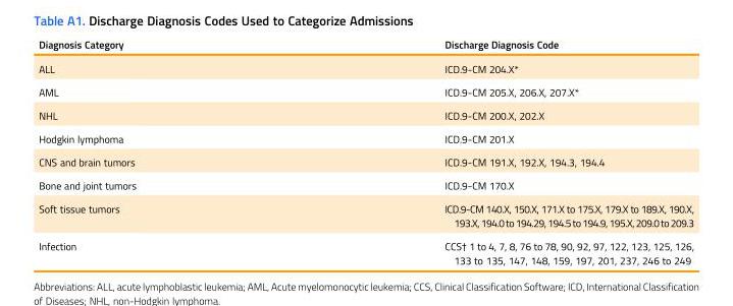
<table><thead><tr><td>Diagnosis Category</td><td>Discharge Diagnosis Code</td></tr></thead><tbody><tr><td>ALL</td><td>ICD.9-CM 204.X*</td></tr><tr><td>AML</td><td>ICD.9-CM 205.X, 206.X, 207.X*</td></tr><tr><td>NHL</td><td>ICD.9-CM 200.X, 202.X</td></tr><tr><td>Hodgkin lymphoma</td><td>ICD.9-CM 201.X</td></tr><tr><td>CNS and brain tumors</td><td>ICD.9-CM 191.X, 192.X, 194.3, 194.4</td></tr><tr><td>Bone and joint tumors</td><td>ICD.9-CM 170.X</td></tr><tr><td>Soft tissue tumors</td><td>ICD.9-CM 140.X, 150.X, 171.X to 175.X, 179.X to 189.X, 190.X, 193.X,194.0to194.29,194.5to194.9,195.X,209.0to209.3</td></tr><tr><td>Infection</td><td>CCS† 1 to 4, 7, 8, 76 to 78, 90, 92, 97, 122, 123, 125, 126, 133 to 135, 147, 148, 159, 197, 201, 237, 246 to 249</td></tr></tbody></table>